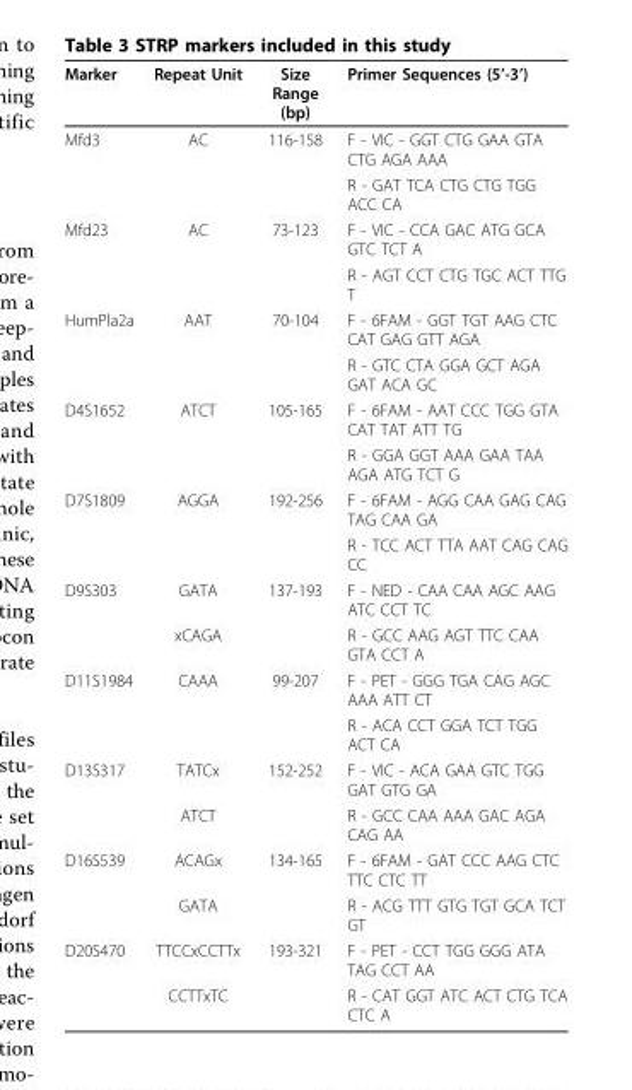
<table><thead><tr><td>Marker</td><td>Repeat Unit</td><td>Size Range (bp)</td><td>Primer Sequences (5’-3’)</td></tr></thead><tbody><tr><td rowspan="2">Mfd3</td><td>AC</td><td>116-158</td><td>F - VIC - GGT CTG GAA GTA CTG AGA AAA</td></tr><tr><td></td><td></td><td>R - GAT TCA CTG CTG TGG ACC CA</td></tr><tr><td rowspan="2">Mfd23</td><td>AC</td><td>73-123</td><td>F - VIC - CCA GAC ATG GCA GTC TCT A</td></tr><tr><td></td><td></td><td>R - AGT CCT CTG TGC ACT TTG T</td></tr><tr><td rowspan="2">HumPla2a</td><td>AAT</td><td>70-104</td><td>F - 6FAM - GGT TGT AAG CTC CAT GAG GTT AGA</td></tr><tr><td></td><td></td><td>R - GTC CTA GGA GCT AGA GAT ACA GC</td></tr><tr><td rowspan="2">D4S1652</td><td>ATCT</td><td>105-165</td><td>F - 6FAM - AAT CCC TGG GTA CAT TAT ATT TG</td></tr><tr><td></td><td></td><td>R - GGA GGT AAA GAA TAA AGA ATG TCT G</td></tr><tr><td rowspan="2">D7S1809</td><td>AGGA</td><td>192-256</td><td>F - 6FAM - AGG CAA GAG CAG TAG CAA GA</td></tr><tr><td></td><td></td><td>R - TCC ACT TTA AAT CAG CAG CC</td></tr><tr><td rowspan="2">D9S303</td><td>GATA</td><td>137-193</td><td>F - NED - CAA CAA AGC AAG ATC CCT TC</td></tr><tr><td>xCAGA</td><td></td><td>R - GCC AAG AGT TTC CAA GTA CCT A</td></tr><tr><td rowspan="2">D11S1984</td><td>CAAA</td><td>99-207</td><td>F - PET - GGG TGA CAG AGC AAA ATT CT</td></tr><tr><td></td><td></td><td>R - ACA CCT GGA TCT TGG ACT CA</td></tr><tr><td rowspan="2">D13S317</td><td>TATCx</td><td>152-252</td><td>F - VIC - ACA GAA GTC TGG GAT GTG GA</td></tr><tr><td>ATCT</td><td></td><td>R - GCC CAA AAA GAC AGA CAG AA</td></tr><tr><td rowspan="2">D16S539</td><td>ACAGx</td><td>134-165</td><td>F - 6FAM - GAT CCC AAG CTC TTC CTC TT</td></tr><tr><td>GATA</td><td></td><td>R - ACG TTT GTG TGT GCA TCT GT</td></tr><tr><td rowspan="2">D20S470</td><td>TTCCxCCTTx</td><td>193-321</td><td>F - PET - CCT TGG GGG ATA TAG CCT AA</td></tr><tr><td>CCTTxTC</td><td></td><td>R - CAT GGT ATC ACT CTG TCA CTC A</td></tr></tbody></table>